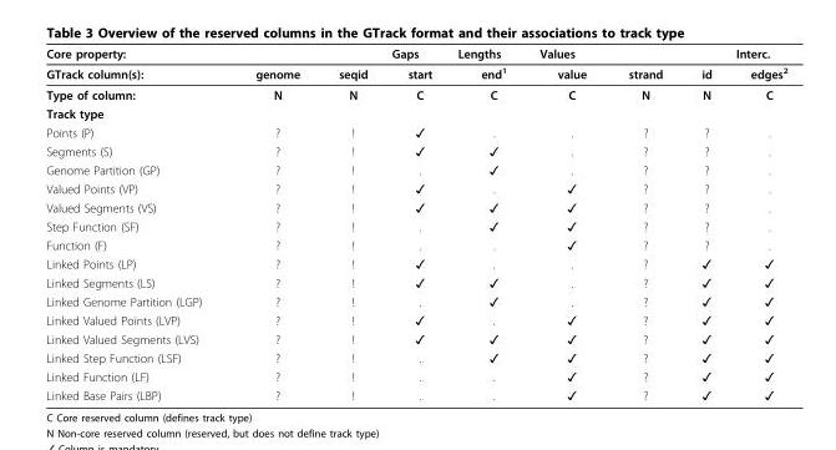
<table><thead><tr><td>Core property:</td><td></td><td></td><td>Gaps</td><td>Lengths</td><td>Values</td><td></td><td></td><td>Interc.</td></tr></thead><tbody><tr><td>GTrack column(s):</td><td>genome</td><td>seqid</td><td>start</td><td>end<sup>1</sup></td><td>value</td><td>strand</td><td>id</td><td>edges<sup>2</sup></td></tr><tr><td>Type of column:</td><td>N</td><td>N</td><td>C</td><td>C</td><td>C</td><td>N</td><td>N</td><td>C</td></tr><tr><td colspan="9">Track type</td></tr><tr><td>Points (P)</td><td>?</td><td>!</td><td>✓</td><td>.</td><td>.</td><td>?</td><td>?</td><td>.</td></tr><tr><td>Segments (S)</td><td>?</td><td>!</td><td>✓</td><td>✓</td><td>.</td><td>?</td><td>?</td><td>.</td></tr><tr><td>Genome Partition (GP)</td><td>?</td><td>!</td><td>.</td><td>✓</td><td>.</td><td>?</td><td>?</td><td>.</td></tr><tr><td>Valued Points (VP)</td><td>?</td><td>!</td><td>✓</td><td>.</td><td>✓</td><td>?</td><td>?</td><td>.</td></tr><tr><td>Valued Segments (VS)</td><td>?</td><td>!</td><td>✓</td><td>✓</td><td>✓</td><td>?</td><td>?</td><td>.</td></tr><tr><td>Step Function (SF)</td><td>?</td><td>!</td><td>.</td><td>✓</td><td>✓</td><td>?</td><td>?</td><td>.</td></tr><tr><td>Function (F)</td><td>?</td><td>!</td><td>.</td><td>.</td><td>✓</td><td>?</td><td>?</td><td>.</td></tr><tr><td>Linked Points (LP)</td><td>?</td><td>!</td><td>✓</td><td>.</td><td>.</td><td>?</td><td>✓</td><td>✓</td></tr><tr><td>Linked Segments (LS)</td><td>?</td><td>!</td><td>✓</td><td>✓</td><td>.</td><td>?</td><td>✓</td><td>✓</td></tr><tr><td>Linked Genome Partition (LGP)</td><td>?</td><td>!</td><td>.</td><td>✓</td><td>.</td><td>?</td><td>✓</td><td>✓</td></tr><tr><td>Linked Valued Points (LVP)</td><td>?</td><td>!</td><td>✓</td><td>.</td><td>✓</td><td>?</td><td>✓</td><td>✓</td></tr><tr><td>Linked Valued Segments (LVS)</td><td>?</td><td>!</td><td>✓</td><td>✓</td><td>✓</td><td>?</td><td>✓</td><td>✓</td></tr><tr><td>Linked Step Function (LSF)</td><td>?</td><td>!</td><td>.</td><td>✓</td><td>✓</td><td>?</td><td>✓</td><td>✓</td></tr><tr><td>Linked Function (LF)</td><td>?</td><td>!</td><td>.</td><td>.</td><td>✓</td><td>?</td><td>✓</td><td>✓</td></tr><tr><td>Linked Base Pairs (LBP)</td><td>?</td><td>!</td><td>.</td><td>.</td><td>✓</td><td>?</td><td>✓</td><td>✓</td></tr></tbody></table>